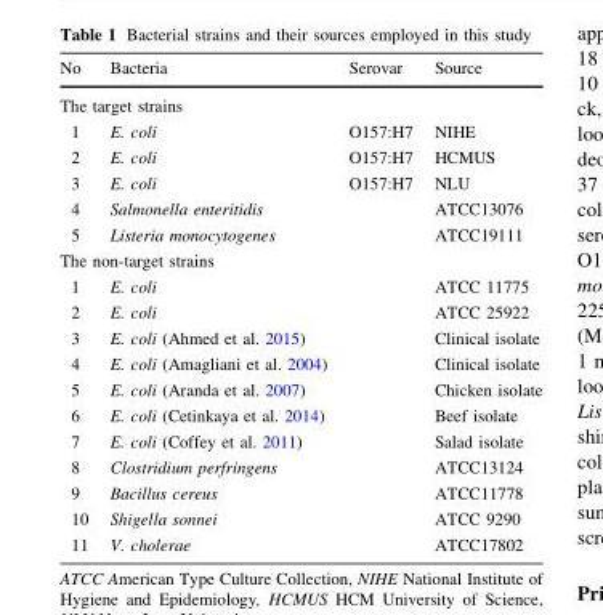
<table><thead><tr><td>No</td><td>Bacteria</td><td>Serovar</td><td>Source</td></tr></thead><tbody><tr><td colspan="4">The target strains</td></tr><tr><td>1</td><td>E. coli</td><td>O157:H7</td><td>NIHE</td></tr><tr><td>2</td><td>E. coli</td><td>O157:H7</td><td>HCMUS</td></tr><tr><td>3</td><td>E. coli</td><td>O157:H7</td><td>NLU</td></tr><tr><td>4</td><td>Salmonella enteritidis</td><td></td><td>ATCC13076</td></tr><tr><td>5</td><td>Listeria monocytogenes</td><td></td><td>ATCC19111</td></tr><tr><td colspan="4">The non-target strains</td></tr><tr><td>1</td><td>E. coli</td><td></td><td>ATCC 11775</td></tr><tr><td>2</td><td>E. coli</td><td></td><td>ATCC 25922</td></tr><tr><td>3</td><td>E. coli (Ahmed et al. 2015)</td><td></td><td>Clinical isolate</td></tr><tr><td>4</td><td>E. coli (Amagliani et al. 2004)</td><td></td><td>Clinical isolate</td></tr><tr><td>5</td><td>E. coli (Aranda et al. 2007)</td><td></td><td>Chicken isolate</td></tr><tr><td>6</td><td>E. coli (Cetinkaya et al. 2014)</td><td></td><td>Beef isolate</td></tr><tr><td>7</td><td>E. coli (Coffey et al. 2011)</td><td></td><td>Salad isolate</td></tr><tr><td>8</td><td>Clostridium perfringens</td><td></td><td>ATCC13124</td></tr><tr><td>9</td><td>Bacillus cereus</td><td></td><td>ATCC11778</td></tr><tr><td>10</td><td>Shigella sonnei</td><td></td><td>ATCC 9290</td></tr><tr><td>11</td><td>V. cholerae</td><td></td><td>ATCC17802</td></tr></tbody></table>